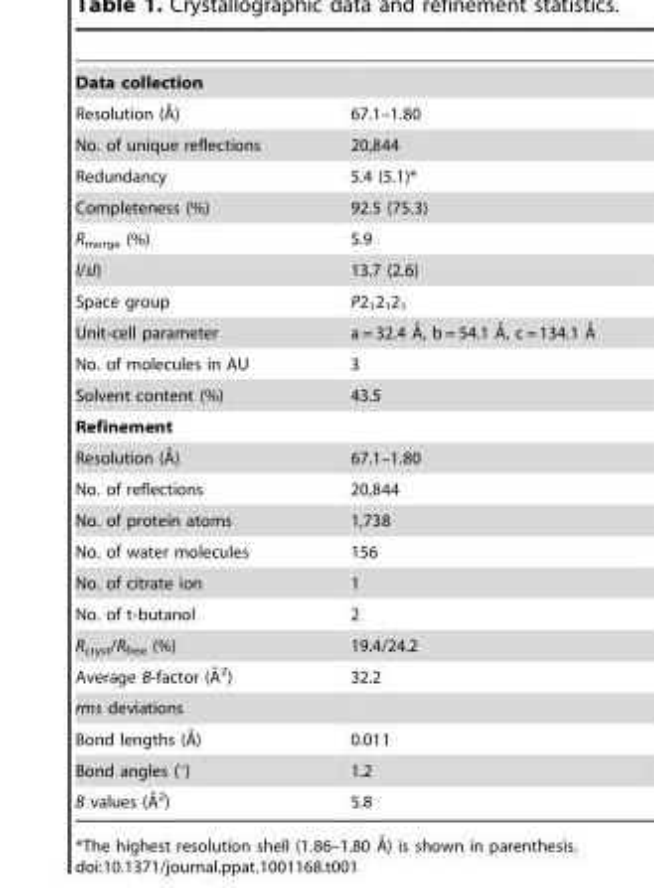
<table><tbody><tr><td colspan="2">Data collection</td></tr><tr><td>Resolution (A˚)</td><td>67.1–1.80</td></tr><tr><td>No. of unique reflections</td><td>20,844</td></tr><tr><td>Redundancy</td><td>5.4 (5.1)*</td></tr><tr><td>Completeness (%)</td><td>92.5 (75.3)</td></tr><tr><td>R<sub>merge</sub> (%)</td><td>5.9</td></tr><tr><td>I/sI)</td><td>13.7 (2.6)</td></tr><tr><td>Space group</td><td>P2<sub>1</sub>2<sub>1</sub>2<sub>1</sub></td></tr><tr><td>Unit-cell parameter</td><td>a = 32.4 A˚, b = 54.1 A˚, c = 134.1</td></tr><tr><td>No. of molecules in AU</td><td>3</td></tr><tr><td>Solvent content (%)</td><td>43.5</td></tr><tr><td colspan="2">Refinement</td></tr><tr><td>Resolution (A˚)</td><td>67.1–1.80</td></tr><tr><td>No. of reflections</td><td>20,844</td></tr><tr><td>No. of protein atoms</td><td>1,738</td></tr><tr><td>No. of water molecules</td><td>156</td></tr><tr><td>No. of citrate ion</td><td>1</td></tr><tr><td>No. of t-butanol</td><td>2</td></tr><tr><td>R<sub>cryst</sub>/R<sub>free</sub> (%)</td><td>19.4/24.2</td></tr><tr><td>Average B-factor (A˚ 2)</td><td>32.2</td></tr><tr><td colspan="2">rms deviations</td></tr><tr><td>Bond lengths (A˚)</td><td>0.011</td></tr><tr><td>Bond angles (°)</td><td>1.2</td></tr><tr><td>B values (A˚2)</td><td>5.8</td></tr></tbody></table>